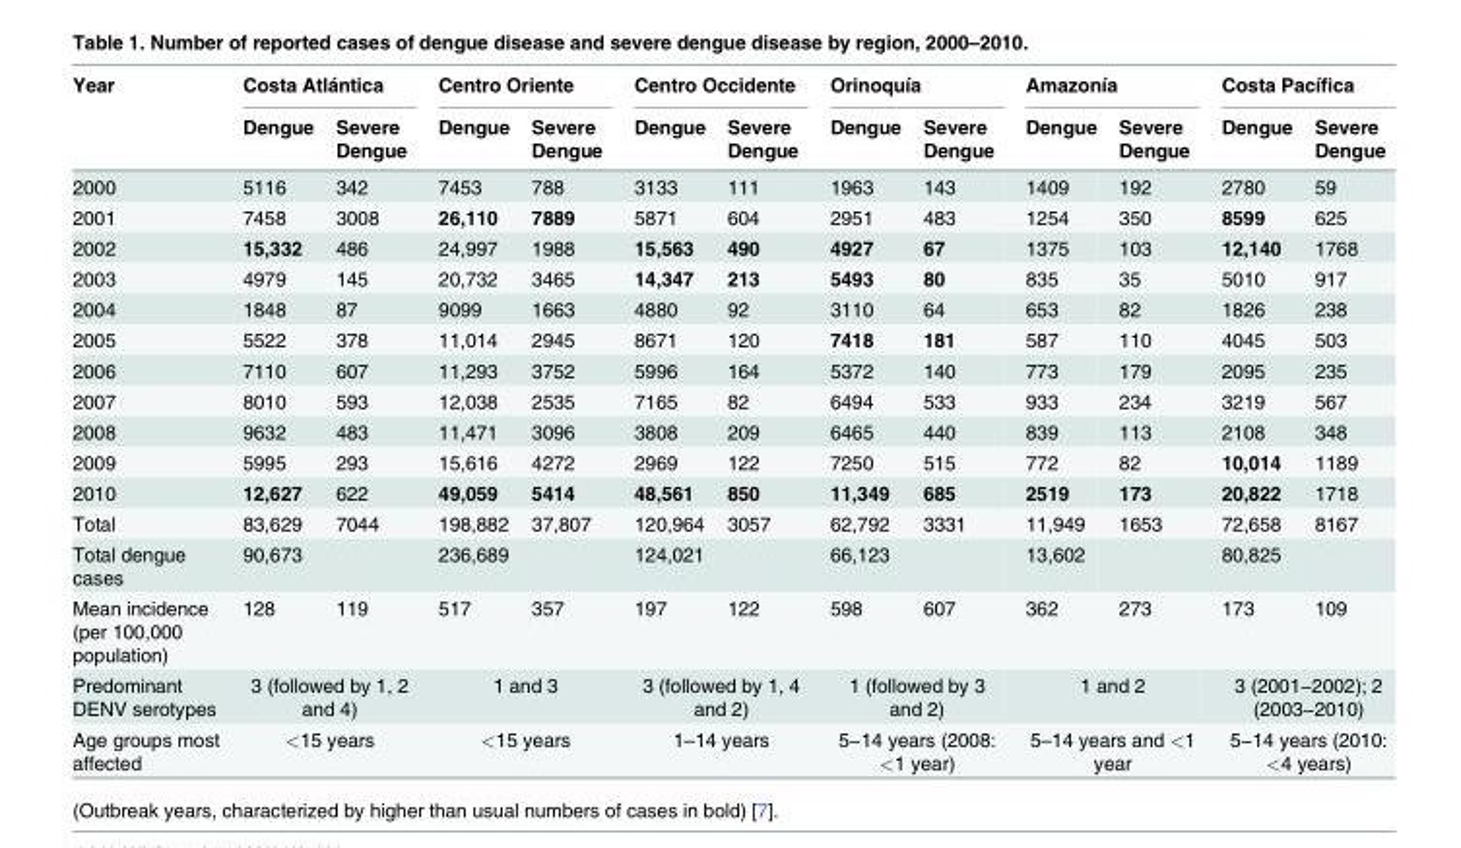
<table><thead><tr><td rowspan="2">Year</td><td colspan="2">Costa Atlántica</td><td colspan="2">Centro Oriente</td><td colspan="2">Centro Occidente</td><td colspan="2">Orinoquía</td><td colspan="2">Amazonía</td><td colspan="2">Costa Pacífica</td></tr><tr><td>Dengue</td><td>Severe Dengue</td><td>Dengue</td><td>Severe Dengue</td><td>Dengue</td><td>Severe Dengue</td><td>Dengue</td><td>Severe Dengue</td><td>Dengue</td><td>Severe Dengue</td><td>Dengue</td><td>Severe Dengue</td></tr></thead><tbody><tr><td>2000</td><td>5116</td><td>342</td><td>7453</td><td>788</td><td>3133</td><td>111</td><td>1963</td><td>143</td><td>1409</td><td>192</td><td>2780</td><td>59</td></tr><tr><td>2001</td><td>7458</td><td>3008</td><td>26,110</td><td>7889</td><td>5871</td><td>604</td><td>2951</td><td>483</td><td>1254</td><td>350</td><td>8599</td><td>625</td></tr><tr><td>2002</td><td>15,332</td><td>486</td><td>24,997</td><td>1988</td><td>15,563</td><td>490</td><td>4927</td><td>67</td><td>1375</td><td>103</td><td>12,140</td><td>1768</td></tr><tr><td>2003</td><td>4979</td><td>145</td><td>20,732</td><td>3465</td><td>14,347</td><td>213</td><td>5493</td><td>80</td><td>835</td><td>35</td><td>5010</td><td>917</td></tr><tr><td>2004</td><td>1848</td><td>87</td><td>9099</td><td>1663</td><td>4880</td><td>92</td><td>3110</td><td>64</td><td>653</td><td>82</td><td>1826</td><td>238</td></tr><tr><td>2005</td><td>5522</td><td>378</td><td>11,014</td><td>2945</td><td>8671</td><td>120</td><td>7418</td><td>181</td><td>587</td><td>110</td><td>4045</td><td>503</td></tr><tr><td>2006</td><td>7110</td><td>607</td><td>11,293</td><td>3752</td><td>5996</td><td>164</td><td>5372</td><td>140</td><td>773</td><td>179</td><td>2095</td><td>235</td></tr><tr><td>2007</td><td>8010</td><td>593</td><td>12,038</td><td>2535</td><td>7165</td><td>82</td><td>6494</td><td>533</td><td>933</td><td>234</td><td>3219</td><td>567</td></tr><tr><td>2008</td><td>9632</td><td>483</td><td>11,471</td><td>3096</td><td>3808</td><td>209</td><td>6465</td><td>440</td><td>839</td><td>113</td><td>2108</td><td>348</td></tr><tr><td>2009</td><td>5995</td><td>293</td><td>15,616</td><td>4272</td><td>2969</td><td>122</td><td>7250</td><td>515</td><td>772</td><td>82</td><td>10,014</td><td>1189</td></tr><tr><td>2010</td><td>12,627</td><td>622</td><td>49,059</td><td>5414</td><td>48,561</td><td>850</td><td>11,349</td><td>685</td><td>2519</td><td>173</td><td>20,822</td><td>1718</td></tr><tr><td>Total</td><td>83,629</td><td>7044</td><td>198,882</td><td>37,807</td><td>120,964</td><td>3057</td><td>62,792</td><td>3331</td><td>11,949</td><td>1653</td><td>72,658</td><td>8167</td></tr><tr><td>Total dengue cases</td><td>90,673</td><td></td><td>236,689</td><td></td><td>124,021</td><td></td><td>66,123</td><td></td><td>13,602</td><td></td><td>80,825</td><td></td></tr><tr><td>Mean incidence (per 100,000 population)</td><td>128</td><td>119</td><td>517</td><td>357</td><td>197</td><td>122</td><td>598</td><td>607</td><td>362</td><td>273</td><td>173</td><td>109</td></tr><tr><td>Predominant DENV serotypes</td><td colspan="2">3 (followed by 1, 2 and 4)</td><td colspan="2">1 and 3</td><td colspan="2">3 (followed by 1, 4 and 2)</td><td colspan="2">1 (followed by 3 and 2)</td><td colspan="2">1 and 2</td><td colspan="2">3 (2001−2002); 2 (2003−2010)</td></tr><tr><td>Age groups most affected</td><td colspan="2">&lt;15 years</td><td colspan="2">&lt;15 years</td><td colspan="2">1–14 years</td><td colspan="2">5−14 years (2008: &lt;1 year)</td><td colspan="2">5–14 years and &lt;1 year</td><td colspan="2">5−14 years (2010: &lt;4 years)</td></tr></tbody></table>